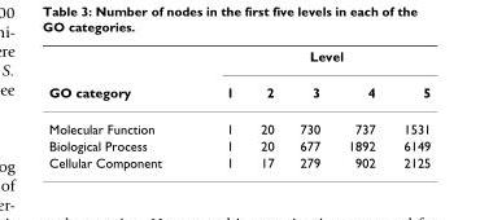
<table><thead><tr><td rowspan="2">GO category</td><td colspan="5">Level</td></tr><tr><td>1</td><td>2</td><td>3</td><td>4</td><td>5</td></tr></thead><tbody><tr><td>Molecular Function</td><td>1</td><td>20</td><td>730</td><td>737</td><td>1531</td></tr><tr><td>Biological Process</td><td>1</td><td>20</td><td>677</td><td>1892</td><td>6149</td></tr><tr><td>Cellular Component</td><td>1</td><td>17</td><td>279</td><td>902</td><td>2125</td></tr></tbody></table>